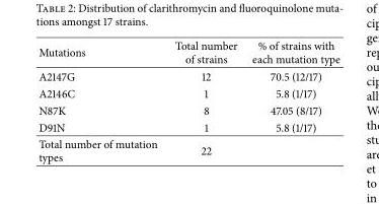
<table><thead><tr><td>Mutations</td><td>Total number of strains</td><td>% of strains with each mutation type</td></tr></thead><tbody><tr><td>A2147G</td><td>12</td><td>70.5 (12/17)</td></tr><tr><td>A2146C</td><td>1</td><td>5.8 (1/17)</td></tr><tr><td>N87K</td><td>8</td><td>47.05 (8/17)</td></tr><tr><td>D91N</td><td>1</td><td>5.8 (1/17)</td></tr><tr><td>Total number of mutation types</td><td>22</td><td></td></tr></tbody></table>